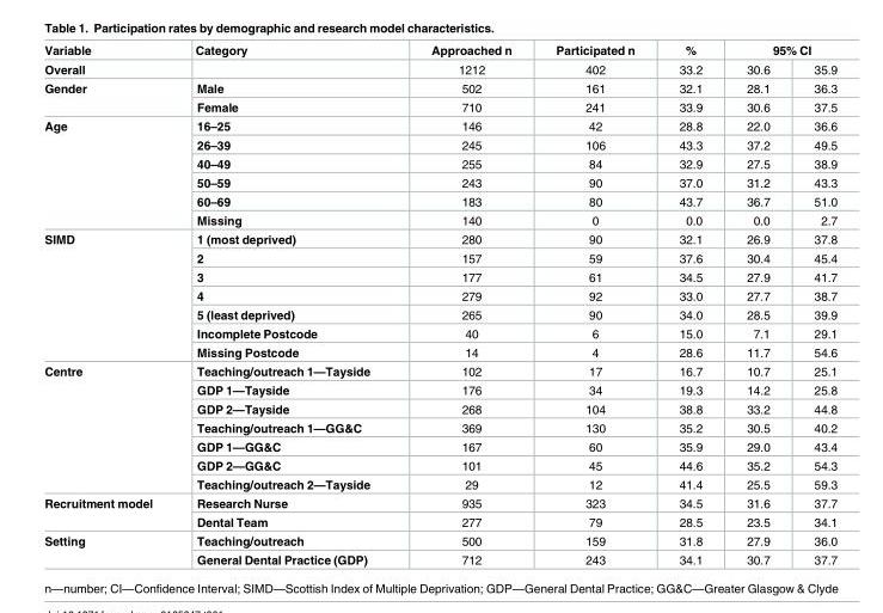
<table><thead><tr><td rowspan="2">Variable Overall</td><td rowspan="2">Category</td><td rowspan="2">Approached n 1212</td><td rowspan="2">Participated n 402</td><td rowspan="2">% 33.2</td><td colspan="2">95% CI</td></tr><tr><td>30.6</td><td>35.9</td></tr></thead><tbody><tr><td rowspan="2">Gender</td><td>Male</td><td>502</td><td>161</td><td>32.1</td><td>28.1</td><td>36.3</td></tr><tr><td>Female</td><td>710</td><td>241</td><td>33.9</td><td>30.6</td><td>37.5</td></tr><tr><td rowspan="6">Age</td><td>16–25</td><td>146</td><td>42</td><td>28.8</td><td>22.0</td><td>36.6</td></tr><tr><td>26–39</td><td>245</td><td>106</td><td>43.3</td><td>37.2</td><td>49.5</td></tr><tr><td>40–49</td><td>255</td><td>84</td><td>32.9</td><td>27.5</td><td>38.9</td></tr><tr><td>50–59</td><td>243</td><td>90</td><td>37.0</td><td>31.2</td><td>43.3</td></tr><tr><td>60–69</td><td>183</td><td>80</td><td>43.7</td><td>36.7</td><td>51.0</td></tr><tr><td>Missing</td><td>140</td><td>0</td><td>0.0</td><td>0.0</td><td>2.7</td></tr><tr><td rowspan="7">SIMD</td><td>1 (most deprived)</td><td>280</td><td>90</td><td>32.1</td><td>26.9</td><td>37.8</td></tr><tr><td>2</td><td>157</td><td>59</td><td>37.6</td><td>30.4</td><td>45.4</td></tr><tr><td>3</td><td>177</td><td>61</td><td>34.5</td><td>27.9</td><td>41.7</td></tr><tr><td>4</td><td>279</td><td>92</td><td>33.0</td><td>27.7</td><td>38.7</td></tr><tr><td>5 (least deprived)</td><td>265</td><td>90</td><td>34.0</td><td>28.5</td><td>39.9</td></tr><tr><td>Incomplete Postcode</td><td>40</td><td>6</td><td>15.0</td><td>7.1</td><td>29.1</td></tr><tr><td>Missing Postcode</td><td>14</td><td>4</td><td>28.6</td><td>11.7</td><td>54.6</td></tr><tr><td rowspan="7">Centre</td><td>Teaching/outreach 1—Tayside</td><td>102</td><td>17</td><td>16.7</td><td>10.7</td><td>25.1</td></tr><tr><td>GDP 1—Tayside</td><td>176</td><td>34</td><td>19.3</td><td>14.2</td><td>25.8</td></tr><tr><td>GDP 2—Tayside</td><td>268</td><td>104</td><td>38.8</td><td>33.2</td><td>44.8</td></tr><tr><td>Teaching/outreach 1—GG&amp;C</td><td>369</td><td>130</td><td>35.2</td><td>30.5</td><td>40.2</td></tr><tr><td>GDP 1—GG&amp;C</td><td>167</td><td>60</td><td>35.9</td><td>29.0</td><td>43.4</td></tr><tr><td>GDP 2—GG&amp;C</td><td>101</td><td>45</td><td>44.6</td><td>35.2</td><td>54.3</td></tr><tr><td>Teaching/outreach 2—Tayside</td><td>29</td><td>12</td><td>41.4</td><td>25.5</td><td>59.3</td></tr><tr><td rowspan="2">Recruitment model</td><td>Research Nurse</td><td>935</td><td>323</td><td>34.5</td><td>31.6</td><td>37.7</td></tr><tr><td>Dental Team</td><td>277</td><td>79</td><td>28.5</td><td>23.5</td><td>34.1</td></tr><tr><td rowspan="2">Setting</td><td>Teaching/outreach</td><td>500</td><td>159</td><td>31.8</td><td>27.9</td><td>36.0</td></tr><tr><td>General Dental Practice (GDP)</td><td>712</td><td>243</td><td>34.1</td><td>30.7</td><td>37.7</td></tr></tbody></table>